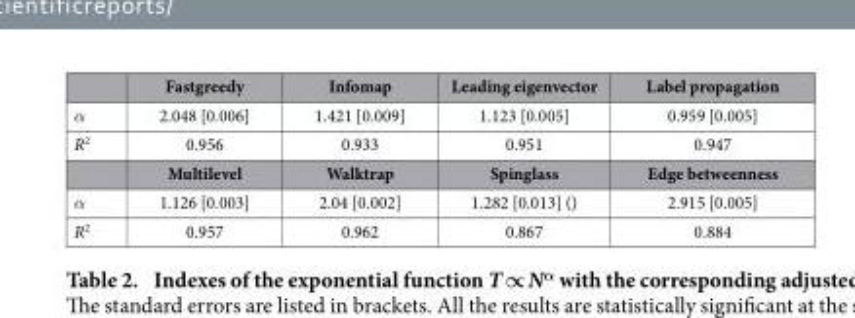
<table><thead><tr><td></td><td>Fastgreedy</td><td>Infomap</td><td>Leading eigenvector</td><td>Label propagation</td></tr></thead><tbody><tr><td>α</td><td>2.048 [0.006]</td><td>1.421 [0.009]</td><td>1.123 [0.005]</td><td>0.959 [0.005]</td></tr><tr><td rowspan="2">R<sup>2</sup></td><td>0.956</td><td>0.933</td><td>0.951</td><td>0.947</td></tr><tr><td>Multilevel</td><td>Walktrap</td><td>Spinglass</td><td>Edge betweenness</td></tr><tr><td>α</td><td>1.126 [0.003]</td><td>2.04 [0.002]</td><td>1.282 [0.013] ()</td><td>2.915 [0.005]</td></tr><tr><td>R<sup>2</sup></td><td>0.957</td><td>0.962</td><td>0.867</td><td>0.884</td></tr></tbody></table>